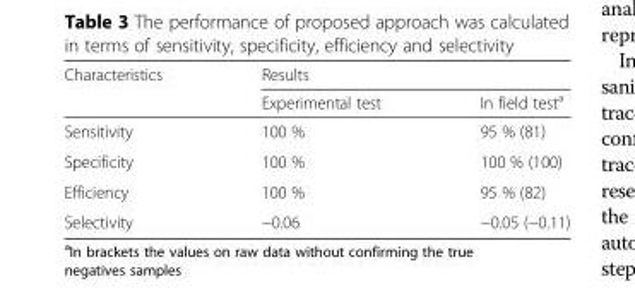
<table><thead><tr><td rowspan="2">Characteristics</td><td colspan="2">Results</td></tr><tr><td>Experimental test</td><td>In field test<sup>a</sup></td></tr></thead><tbody><tr><td>Sensitivity</td><td>100 %</td><td>95 % (81)</td></tr><tr><td>Specificity</td><td>100 %</td><td>100 % (100)</td></tr><tr><td>Efficiency</td><td>100 %</td><td>95 % (82)</td></tr><tr><td>Selectivity</td><td>−0.06</td><td>−0.05 (−0.11)</td></tr></tbody></table>